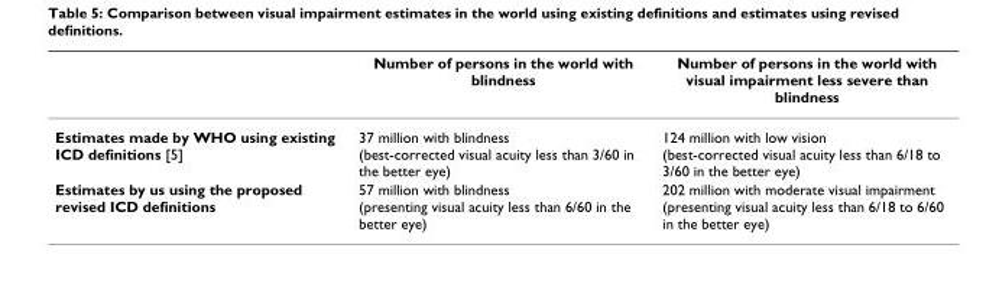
<table><thead><tr><td></td><td>Number of persons in the world with blindness</td><td>Number of persons in the world with visual impairment less severe than blindness</td></tr></thead><tbody><tr><td>Estimates made by WHO using existing ICD definitions [5]</td><td>37 million with blindness (best-corrected visual acuity less than 3/60 in the better eye)</td><td>124 million with low vision (best-corrected visual acuity less than 6/18 to 3/60 in the better eye)</td></tr><tr><td>Estimates by us using the proposed revised ICD definitions</td><td>57 million with blindness (presenting visual acuity less than 6/60 in the better eye)</td><td>202 million with moderate visual impairment (presenting visual acuity less than 6/18 to 6/60 in the better eye)</td></tr></tbody></table>